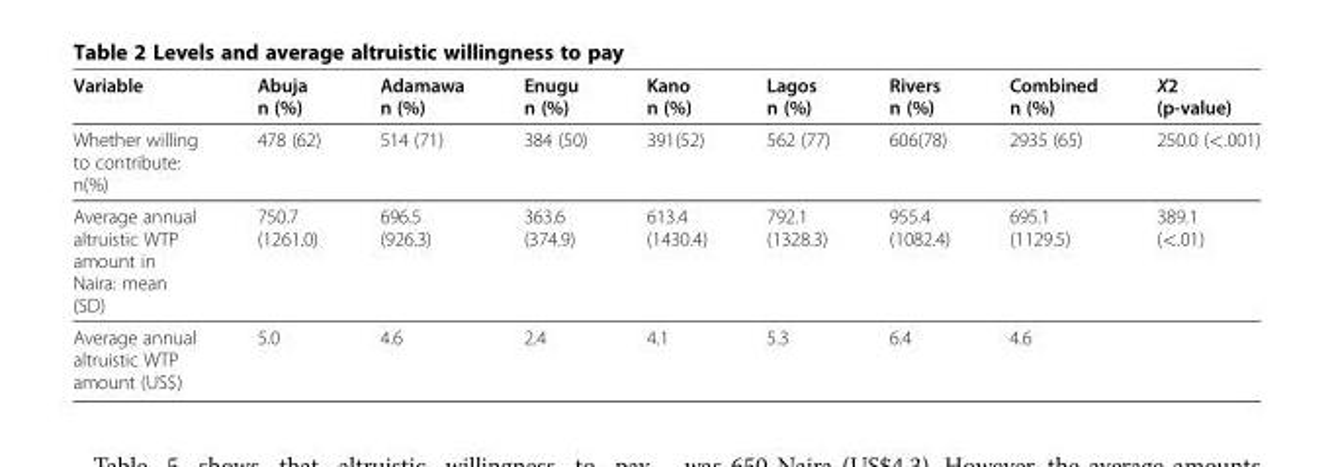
<table><thead><tr><td>Variable</td><td>Abuja n (%)</td><td>Adamawa n (%)</td><td>Enugu n (%)</td><td>Kano n (%)</td><td>Lagos n (%)</td><td>Rivers n (%)</td><td>Combined n (%)</td><td>X2 (p-value)</td></tr></thead><tbody><tr><td>Whether willing to contribute: n(%)</td><td>478 (62)</td><td>514 (71)</td><td>384 (50)</td><td>391(52)</td><td>562 (77)</td><td>606(78)</td><td>2935 (65)</td><td>250.0 (&lt;.001)</td></tr><tr><td>Average annual altruistic WTP amount in Naira: mean (SD)</td><td>750.7 (1261.0)</td><td>696.5 (926.3)</td><td>363.6 (374.9)</td><td>613.4 (1430.4)</td><td>792.1 (1328.3)</td><td>955.4 (1082.4)</td><td>695.1 (1129.5)</td><td>389.1 (&lt;.01)</td></tr><tr><td>Average annual altruistic WTP amount (US$)</td><td>5.0</td><td>4.6</td><td>2.4</td><td>4.1</td><td>5.3</td><td>6.4</td><td>4.6</td><td></td></tr></tbody></table>